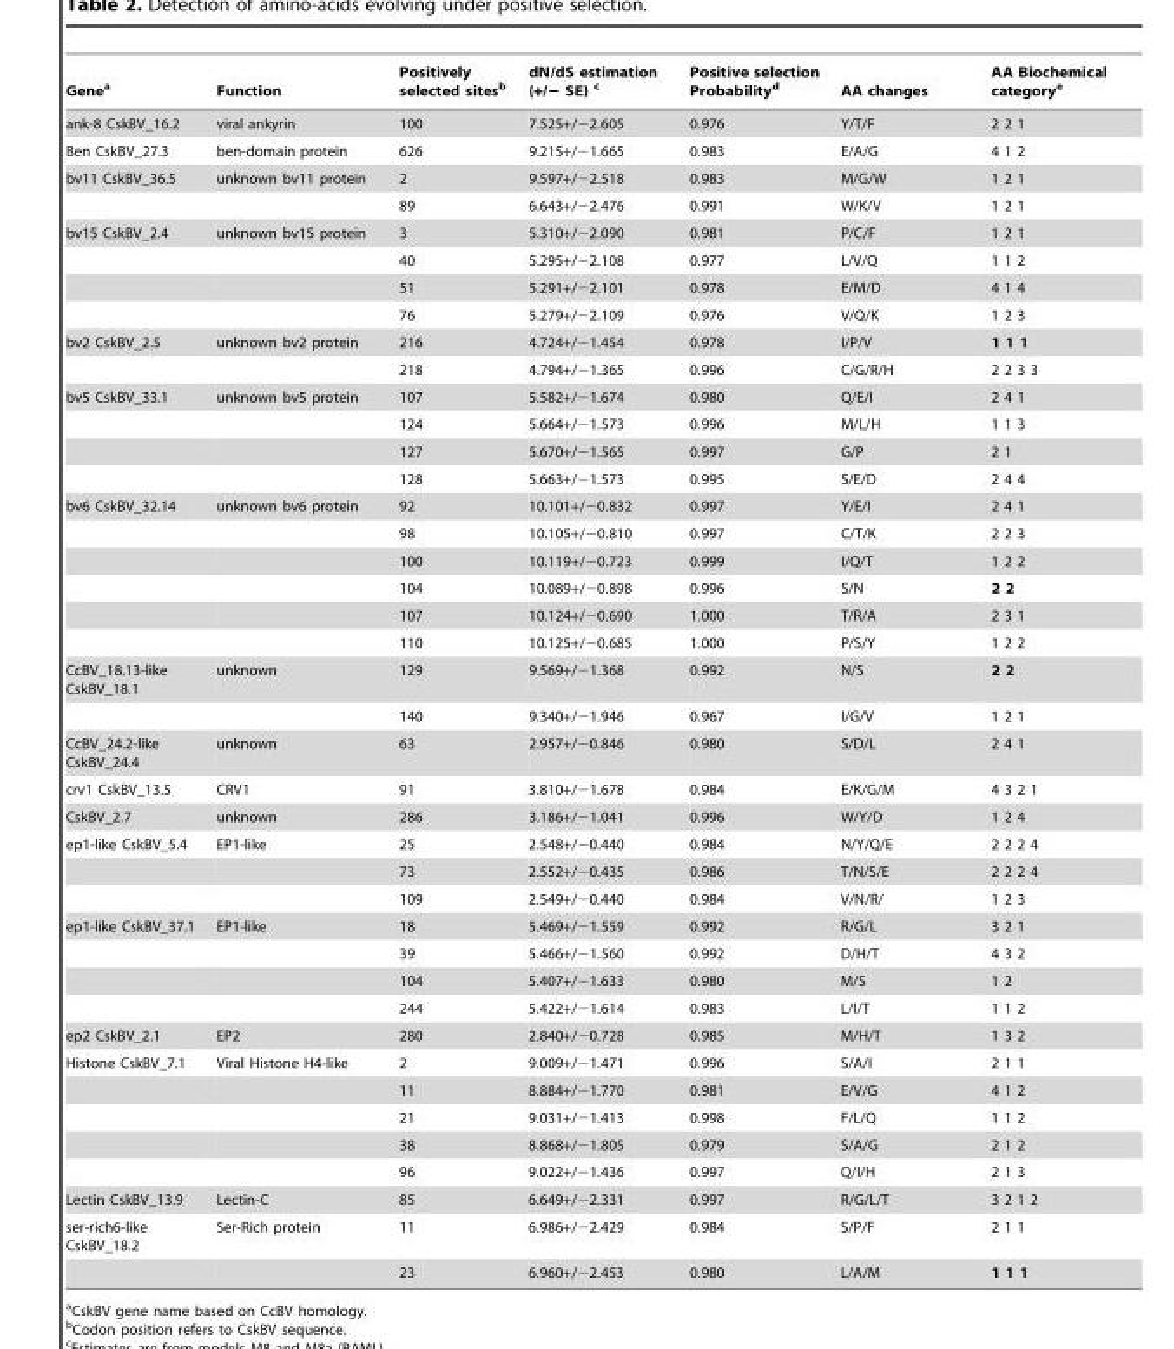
<table><thead><tr><td>Gene<sup>a</sup></td><td>Function</td><td>Positively selected sites<sup>b</sup></td><td>dN/dS estimation (+/− SE) c</td><td>Positive selection Probability<sup>d</sup></td><td>AA changes</td><td>AA Biochemical category<sup>e</sup></td></tr></thead><tbody><tr><td>ank-8 CskBV_16.2</td><td>viral ankyrin</td><td>100</td><td>7.525+/−2.605</td><td>0.976</td><td>Y/T/F</td><td>2 2 1</td></tr><tr><td>Ben CskBV_27.3</td><td>ben-domain protein</td><td>626</td><td>9.215+/−1.665</td><td>0.983</td><td>E/A/G</td><td>4 1 2</td></tr><tr><td rowspan="2">bv11 CskBV_36.5</td><td>unknown bv11 protein</td><td>2</td><td>9.597+/−2.518</td><td>0.983</td><td>M/G/W</td><td>1 2 1</td></tr><tr><td></td><td>89</td><td>6.643+/−2.476</td><td>0.991</td><td>W/K/V</td><td>1 2 1</td></tr><tr><td rowspan="4">bv15 CskBV_2.4</td><td>unknown bv15 protein</td><td>3</td><td>5.310+/−2.090</td><td>0.981</td><td>P/C/F</td><td>1 2 1</td></tr><tr><td></td><td>40</td><td>5.295+/−2.108</td><td>0.977</td><td>L/V/Q</td><td>1 1 2</td></tr><tr><td></td><td>51</td><td>5.291+/−2.101</td><td>0.978</td><td>E/M/D</td><td>4 1 4</td></tr><tr><td></td><td>76</td><td>5.279+/−2.109</td><td>0.976</td><td>V/Q/K</td><td>1 2 3</td></tr><tr><td rowspan="2">bv2 CskBV_2.5</td><td>unknown bv2 protein</td><td>216</td><td>4.724+/−1.454</td><td>0.978</td><td>I/P/V</td><td>1 1 1</td></tr><tr><td></td><td>218</td><td>4.794+/−1.365</td><td>0.996</td><td>C/G/R/H</td><td>2 2 3 3</td></tr><tr><td rowspan="4">bv5 CskBV_33.1</td><td>unknown bv5 protein</td><td>107</td><td>5.582+/−1.674</td><td>0.980</td><td>Q/E/I</td><td>2 4 1</td></tr><tr><td></td><td>124</td><td>5.664+/−1.573</td><td>0.996</td><td>M/L/H</td><td>1 1 3</td></tr><tr><td></td><td>127</td><td>5.670+/−1.565</td><td>0.997</td><td>G/P</td><td>2 1</td></tr><tr><td></td><td>128</td><td>5.663+/−1.573</td><td>0.995</td><td>S/E/D</td><td>2 4 4</td></tr><tr><td rowspan="6">bv6 CskBV_32.14</td><td>unknown bv6 protein</td><td>92</td><td>10.101+/−0.832</td><td>0.997</td><td>Y/E/I</td><td>2 4 1</td></tr><tr><td></td><td>98</td><td>10.105+/−0.810</td><td>0.997</td><td>C/T/K</td><td>2 2 3</td></tr><tr><td></td><td>100</td><td>10.119+/−0.723</td><td>0.999</td><td>I/Q/T</td><td>1 2 2</td></tr><tr><td></td><td>104</td><td>10.089+/−0.898</td><td>0.996</td><td>S/N</td><td>2 2</td></tr><tr><td></td><td>107</td><td>10.124+/−0.690</td><td>1.000</td><td>T/R/A</td><td>2 3 1</td></tr><tr><td></td><td>110</td><td>10.125+/−0.685</td><td>1.000</td><td>P/S/Y</td><td>1 2 2</td></tr><tr><td rowspan="2">CcBV_18.13-like CskBV_18.1</td><td>unknown</td><td>129</td><td>9.569+/−1.368</td><td>0.992</td><td>N/S</td><td>2 2</td></tr><tr><td></td><td>140</td><td>9.340+/−1.946</td><td>0.967</td><td>I/G/V</td><td>1 2 1</td></tr><tr><td>CcBV_24.2-like CskBV_24.4</td><td>unknown</td><td>63</td><td>2.957+/−0.846</td><td>0.980</td><td>S/D/L</td><td>2 4 1</td></tr><tr><td>crv1 CskBV_13.5</td><td>CRV1</td><td>91</td><td>3.810+/−1.678</td><td>0.984</td><td>E/K/G/M</td><td>4 3 2 1</td></tr><tr><td>CskBV_2.7</td><td>unknown</td><td>286</td><td>3.186+/−1.041</td><td>0.996</td><td>W/Y/D</td><td>1 2 4</td></tr><tr><td rowspan="3">ep1-like CskBV_5.4</td><td>EP1-like</td><td>25</td><td>2.548+/−0.440</td><td>0.984</td><td>N/Y/Q/E</td><td>2 2 2 4</td></tr><tr><td></td><td>73</td><td>2.552+/−0.435</td><td>0.986</td><td>T/N/S/E</td><td>2 2 2 4</td></tr><tr><td></td><td>109</td><td>2.549+/−0.440</td><td>0.984</td><td>V/N/R/</td><td>1 2 3</td></tr><tr><td rowspan="4">ep1-like CskBV_37.1</td><td>EP1-like</td><td>18</td><td>5.469+/−1.559</td><td>0.992</td><td>R/G/L</td><td>3 2 1</td></tr><tr><td></td><td>39</td><td>5.466+/−1.560</td><td>0.992</td><td>D/H/T</td><td>4 3 2</td></tr><tr><td></td><td>104</td><td>5.407+/−1.633</td><td>0.980</td><td>M/S</td><td>1 2</td></tr><tr><td></td><td>244</td><td>5.422+/−1.614</td><td>0.983</td><td>L/I/T</td><td>1 1 2</td></tr><tr><td>ep2 CskBV_2.1</td><td>EP2</td><td>280</td><td>2.840+/−0.728</td><td>0.985</td><td>M/H/T</td><td>1 3 2</td></tr><tr><td rowspan="5">Histone CskBV_7.1</td><td>Viral Histone H4-like</td><td>2</td><td>9.009+/−1.471</td><td>0.996</td><td>S/A/I</td><td>2 1 1</td></tr><tr><td></td><td>11</td><td>8.884+/−1.770</td><td>0.981</td><td>E/V/G</td><td>4 1 2</td></tr><tr><td></td><td>21</td><td>9.031+/−1.413</td><td>0.998</td><td>F/L/Q</td><td>1 1 2</td></tr><tr><td></td><td>38</td><td>8.868+/−1.805</td><td>0.979</td><td>S/A/G</td><td>2 1 2</td></tr><tr><td></td><td>96</td><td>9.022+/−1.436</td><td>0.997</td><td>Q/I/H</td><td>2 1 3</td></tr><tr><td>Lectin CskBV_13.9</td><td>Lectin-C</td><td>85</td><td>6.649+/−2.331</td><td>0.997</td><td>R/G/L/T</td><td>3 2 1 2</td></tr><tr><td rowspan="2">ser-rich6-like CskBV_18.2</td><td>Ser-Rich protein</td><td>11</td><td>6.986+/−2.429</td><td>0.984</td><td>S/P/F</td><td>2 1 1</td></tr><tr><td></td><td>23</td><td>6.960+/−2.453</td><td>0.980</td><td>L/A/M</td><td>1 1 1</td></tr></tbody></table>